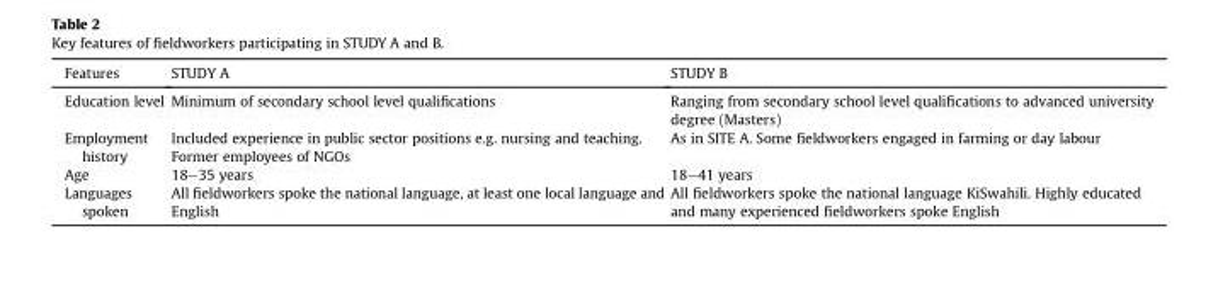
<table><thead><tr><td>Features</td><td>STUDY A</td><td>STUDY B</td></tr></thead><tbody><tr><td>Education level</td><td>Minimum of secondary school level qualifications</td><td>Ranging from secondary school level qualifications to advanced university degree (Masters)</td></tr><tr><td>Employment history</td><td>Included experience in public sector positions e.g. nursing and teaching. Former employees of NGOs</td><td>As in SITE A. Some fieldworkers engaged in farming or day labour</td></tr><tr><td>Age</td><td>18–35 years</td><td>18–41 years</td></tr><tr><td>Languages spoken</td><td>All fieldworkers spoke the national language, at least one local language and English</td><td>All fieldworkers spoke the national language KiSwahili. Highly educated and many experienced fieldworkers spoke English</td></tr></tbody></table>